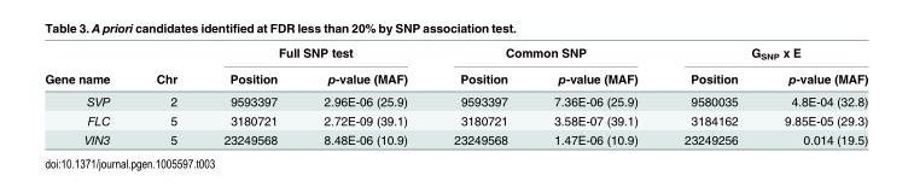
<table><thead><tr><td rowspan="2">Gene name</td><td rowspan="2">Chr</td><td colspan="2">Full SNP test</td><td colspan="2">Common SNP</td><td colspan="2">G<sub>SNP</sub> x E</td></tr><tr><td>Position</td><td>p-value (MAF)</td><td>Position</td><td>p-value (MAF)</td><td>Position</td><td>p-value (MAF)</td></tr></thead><tbody><tr><td>SVP</td><td>2</td><td>9593397</td><td>2.96E-06 (25.9)</td><td>9593397</td><td>7.36E-06 (25.9)</td><td>9580035</td><td>4.8E-04 (32.8)</td></tr><tr><td>FLC</td><td>5</td><td>3180721</td><td>2.72E-09 (39.1)</td><td>3180721</td><td>3.58E-07 (39.1)</td><td>3184162</td><td>9.85E-05 (29.3)</td></tr><tr><td>VIN3</td><td>5</td><td>23249568</td><td>8.48E-06 (10.9)</td><td>23249568</td><td>1.47E-06 (10.9)</td><td>23249256</td><td>0.014 (19.5)</td></tr></tbody></table>